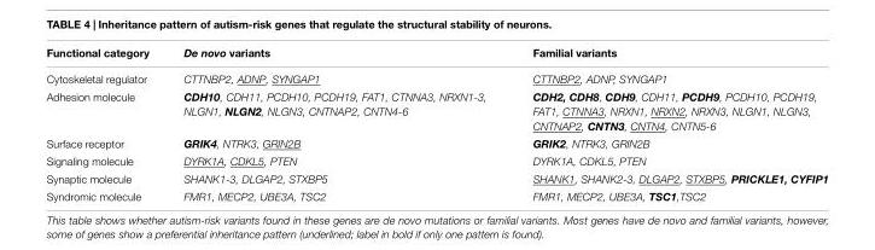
<table><thead><tr><td>Functional category</td><td>De novo variants</td><td>Familial variants</td></tr></thead><tbody><tr><td>Cytoskeletal regulator</td><td>CTTNBP2, ADNP, SYNGAP1</td><td>CTTNBP2, ADNP, SYNGAP1</td></tr><tr><td>Adhesion molecule</td><td>CDH10, CDH11, PCDH10, PCDH19, FAT1, CTNNA3, NRXN1-3, NLGN1, NLGN2, NLGN3, CNTNAP2, CNTN4-6</td><td>CDH2, CDH8, CDH9, CDH11, PCDH9, PCDH10, PCDH19, FAT1, CTNNA3, NRXN1, NRXN2, NRXN3, NLGN1, NLGN3, CNTNAP2, CNTN3, CNTN4, CNTN5-6</td></tr><tr><td>Surface receptor</td><td>GRIK4, NTRK3, GRIN2B</td><td>GRIK2, NTRK3, GRIN2B</td></tr><tr><td>Signaling molecule</td><td>DYRK1A, CDKL5, PTEN</td><td>DYRK1A, CDKL5, PTEN</td></tr><tr><td>Synaptic molecule</td><td>SHANK1-3, DLGAP2, STXBP5</td><td>SHANK1, SHANK2-3, DLGAP2, STXBP5, PRICKLE1, CYFIP1</td></tr><tr><td>Syndromic molecule</td><td>FMR1, MECP2, UBE3A, TSC2</td><td>FMR1, MECP2, UBE3A, TSC1,TSC2</td></tr></tbody></table>